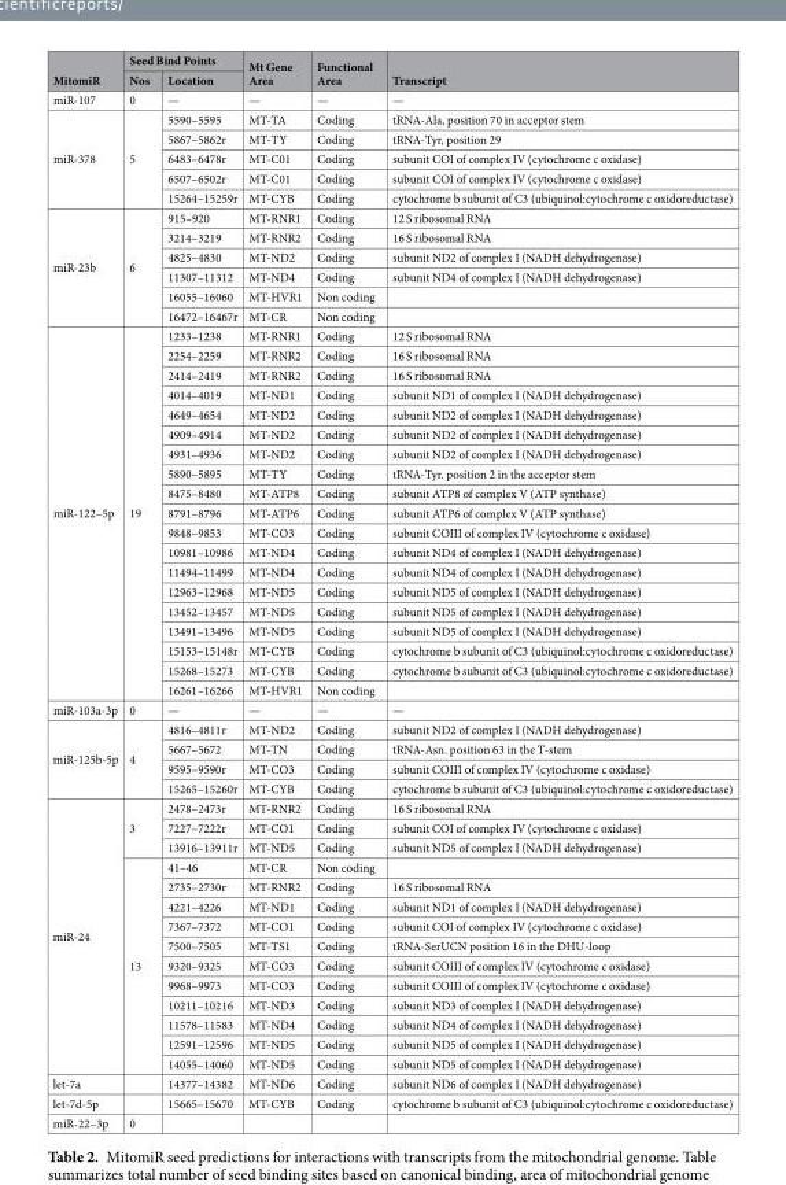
<table><thead><tr><td rowspan="2">MitomiR</td><td colspan="2">Seed Bind Points</td><td rowspan="2">Mt Gene Area</td><td rowspan="2">Functional Area</td><td rowspan="2">Transcript</td></tr><tr><td>Nos</td><td>Location</td></tr></thead><tbody><tr><td>miR-107</td><td>0</td><td>—</td><td>—</td><td>—</td><td>—</td></tr><tr><td rowspan="5">miR-378</td><td rowspan="5">5</td><td>5590–5595</td><td>MT-TA</td><td>Coding</td><td>tRNA-Ala, position 70 in acceptor stem</td></tr><tr><td>5867–5862r</td><td>MT-TY</td><td>Coding</td><td>tRNA-Tyr, position 29</td></tr><tr><td>6483–6478r</td><td>MT-C01</td><td>Coding</td><td>subunit COI of complex IV (cytochrome c oxidase)</td></tr><tr><td>6507–6502r</td><td>MT-C01</td><td>Coding</td><td>subunit COI of complex IV (cytochrome c oxidase)</td></tr><tr><td>15264–15259r</td><td>MT-CYB</td><td>Coding</td><td>cytochrome b subunit of C3 (ubiquinol:cytochrome c oxidoreductase)</td></tr><tr><td rowspan="6">miR-23b</td><td rowspan="6">6</td><td>915–920</td><td>MT-RNR1</td><td>Coding</td><td>12 S ribosomal RNA</td></tr><tr><td>3214–3219</td><td>MT-RNR2</td><td>Coding</td><td>16 S ribosomal RNA</td></tr><tr><td>4825–4830</td><td>MT-ND2</td><td>Coding</td><td>subunit ND2 of complex I (NADH dehydrogenase)</td></tr><tr><td>11307–11312</td><td>MT-ND4</td><td>Coding</td><td>subunit ND4 of complex I (NADH dehydrogenase)</td></tr><tr><td>16055–16060</td><td>MT-HVR1</td><td>Non coding</td><td></td></tr><tr><td>16472–16467r</td><td>MT-CR</td><td>Non coding</td><td></td></tr><tr><td rowspan="19">miR-122–5p</td><td rowspan="19">19</td><td>1233–1238</td><td>MT-RNR1</td><td>Coding</td><td>12 S ribosomal RNA</td></tr><tr><td>2254–2259</td><td>MT-RNR2</td><td>Coding</td><td>16 S ribosomal RNA</td></tr><tr><td>2414–2419</td><td>MT-RNR2</td><td>Coding</td><td>16 S ribosomal RNA</td></tr><tr><td>4014–4019</td><td>MT-ND1</td><td>Coding</td><td>subunit ND1 of complex I (NADH dehydrogenase)</td></tr><tr><td>4649–4654</td><td>MT-ND2</td><td>Coding</td><td>subunit ND2 of complex I (NADH dehydrogenase)</td></tr><tr><td>4909–4914</td><td>MT-ND2</td><td>Coding</td><td>subunit ND2 of complex I (NADH dehydrogenase)</td></tr><tr><td>4931–4936</td><td>MT-ND2</td><td>Coding</td><td>subunit ND2 of complex I (NADH dehydrogenase)</td></tr><tr><td>5890–5895</td><td>MT-TY</td><td>Coding</td><td>tRNA-Tyr. position 2 in the acceptor stem</td></tr><tr><td>8475–8480</td><td>MT-ATP8</td><td>Coding</td><td>subunit ATP8 of complex V (ATP synthase)</td></tr><tr><td>8791–8796</td><td>MT-ATP6</td><td>Coding</td><td>subunit ATP6 of complex V (ATP synthase)</td></tr><tr><td>9848–9853</td><td>MT-CO3</td><td>Coding</td><td>subunit COIII of complex IV (cytochrome c oxidase)</td></tr><tr><td>10981–10986</td><td>MT-ND4</td><td>Coding</td><td>subunit ND4 of complex I (NADH dehydrogenase)</td></tr><tr><td>11494–11499</td><td>MT-ND4</td><td>Coding</td><td>subunit ND4 of complex I (NADH dehydrogenase)</td></tr><tr><td>12963–12968</td><td>MT-ND5</td><td>Coding</td><td>subunit ND5 of complex I (NADH dehydrogenase)</td></tr><tr><td>13452–13457</td><td>MT-ND5</td><td>Coding</td><td>subunit ND5 of complex I (NADH dehydrogenase)</td></tr><tr><td>13491–13496</td><td>MT-ND5</td><td>Coding</td><td>subunit ND5 of complex I (NADH dehydrogenase)</td></tr><tr><td>15153–15148r</td><td>MT-CYB</td><td>Coding</td><td>cytochrome b subunit of C3 (ubiquinol:cytochrome c oxidoreductase)</td></tr><tr><td>15268–15273</td><td>MT-CYB</td><td>Coding</td><td>cytochrome b subunit of C3 (ubiquinol:cytochrome c oxidoreductase)</td></tr><tr><td>16261–16266</td><td>MT-HVR1</td><td>Non coding</td><td></td></tr><tr><td>miR-103a-3p</td><td>0</td><td>—</td><td>—</td><td>—</td><td>—</td></tr><tr><td rowspan="4">miR-125b-5p</td><td rowspan="4">4</td><td>4816–4811r</td><td>MT-ND2</td><td>Coding</td><td>subunit ND2 of complex I (NADH dehydrogenase)</td></tr><tr><td>5667–5672</td><td>MT-TN</td><td>Coding</td><td>tRNA-Asn. position 63 in the T-stem</td></tr><tr><td>9595–9590r</td><td>MT-CO3</td><td>Coding</td><td>subunit COIII of complex IV (cytochrome c oxidase)</td></tr><tr><td>15265–15260r</td><td>MT-CYB</td><td>Coding</td><td>cytochrome b subunit of C3 (ubiquinol:cytochrome c oxidoreductase)</td></tr><tr><td rowspan="14">miR-24</td><td rowspan="3">3</td><td>2478–2473r</td><td>MT-RNR2</td><td>Coding</td><td>16 S ribosomal RNA</td></tr><tr><td>7227–7222r</td><td>MT-CO1</td><td>Coding</td><td>subunit COI of complex IV (cytochrome c oxidase)</td></tr><tr><td>13916–13911r</td><td>MT-ND5</td><td>Coding</td><td>subunit ND5 of complex I (NADH dehydrogenase)</td></tr><tr><td rowspan="11">13</td><td>41–46</td><td>MT-CR</td><td>Non coding</td><td></td></tr><tr><td>2735–2730r</td><td>MT-RNR2</td><td>Coding</td><td>16 S ribosomal RNA</td></tr><tr><td>4221–4226</td><td>MT-ND1</td><td>Coding</td><td>subunit ND1 of complex I (NADH dehydrogenase)</td></tr><tr><td>7367–7372</td><td>MT-CO1</td><td>Coding</td><td>subunit COI of complex IV (cytochrome c oxidase)</td></tr><tr><td>7500–7505</td><td>MT-TS1</td><td>Coding</td><td>tRNA-SerUCN position 16 in the DHU-loop</td></tr><tr><td>9320–9325</td><td>MT-CO3</td><td>Coding</td><td>subunit COIII of complex IV (cytochrome c oxidase)</td></tr><tr><td>9968–9973</td><td>MT-CO3</td><td>Coding</td><td>subunit COIII of complex IV (cytochrome c oxidase)</td></tr><tr><td>10211–10216</td><td>MT-ND3</td><td>Coding</td><td>subunit ND3 of complex I (NADH dehydrogenase)</td></tr><tr><td>11578–11583</td><td>MT-ND4</td><td>Coding</td><td>subunit ND4 of complex I (NADH dehydrogenase)</td></tr><tr><td>12591–12596</td><td>MT-ND5</td><td>Coding</td><td>subunit ND5 of complex I (NADH dehydrogenase)</td></tr><tr><td>14055–14060</td><td>MT-ND5</td><td>Coding</td><td>subunit ND5 of complex I (NADH dehydrogenase)</td></tr><tr><td>let-7a</td><td></td><td>14377–14382</td><td>MT-ND6</td><td>Coding</td><td>subunit ND6 of complex I (NADH dehydrogenase)</td></tr><tr><td>let-7d-5p</td><td></td><td>15665–15670</td><td>MT-CYB</td><td>Coding</td><td>cytochrome b subunit of C3 (ubiquinol:cytochrome c oxidoreductase)</td></tr><tr><td>miR-22–3p</td><td>0</td><td></td><td></td><td></td><td></td></tr></tbody></table>